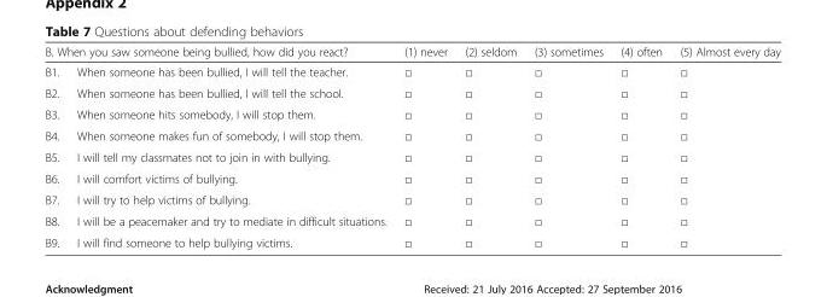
<table><thead><tr><td colspan="2">B. When you saw someone being bullied, how did you react?</td><td rowspan="2">(1) never □</td><td rowspan="2">(2) seldom □</td><td rowspan="2">(3) sometimes □</td><td rowspan="2">(4) often □</td><td rowspan="2">(5) Almost every day □</td></tr><tr><td>B1.</td><td>When someone has been bullied, I will tell the teacher.</td></tr></thead><tbody><tr><td>B2.</td><td>When someone has been bullied, I will tell the school.</td><td>□</td><td>□</td><td>□</td><td>□</td><td>□</td></tr><tr><td>B3.</td><td>When someone hits somebody, I will stop them.</td><td>□</td><td>□</td><td>□</td><td>□</td><td>□</td></tr><tr><td>B4.</td><td>When someone makes fun of somebody, I will stop them.</td><td>□</td><td>□</td><td>□</td><td>□</td><td>□</td></tr><tr><td>B5.</td><td>I will tell my classmates not to join in with bullying.</td><td>□</td><td>□</td><td>□</td><td>□</td><td>□</td></tr><tr><td>B6.</td><td>I will comfort victims of bullying.</td><td>□</td><td>□</td><td>□</td><td>□</td><td>□</td></tr><tr><td>B7.</td><td>I will try to help victims of bullying.</td><td>□</td><td>□</td><td>□</td><td>□</td><td>□</td></tr><tr><td>B8.</td><td>I will be a peacemaker and try to mediate in difficult situations.</td><td>□</td><td>□</td><td>□</td><td>□</td><td>□</td></tr><tr><td>B9.</td><td>I will find someone to help bullying victims.</td><td>□</td><td>□</td><td>□</td><td>□</td><td>□</td></tr></tbody></table>